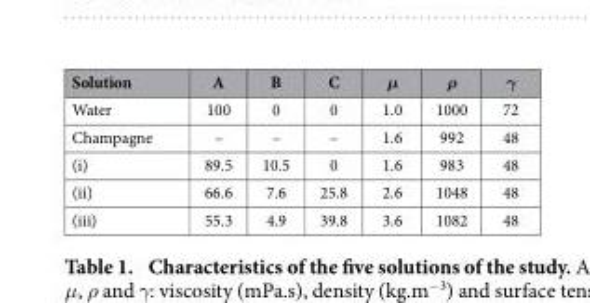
<table><thead><tr><td>Solution</td><td>A</td><td>B</td><td>C</td><td>μ</td><td>ρ</td><td>γ</td></tr></thead><tbody><tr><td>Water</td><td>100</td><td>0</td><td>0</td><td>1.0</td><td>1000</td><td>72</td></tr><tr><td>Champagne</td><td>–</td><td>–</td><td>–</td><td>1.6</td><td>992</td><td>48</td></tr><tr><td>(i)</td><td>89.5</td><td>10.5</td><td>0</td><td>1.6</td><td>983</td><td>48</td></tr><tr><td>(ii)</td><td>66.6</td><td>7.6</td><td>25.8</td><td>2.6</td><td>1048</td><td>48</td></tr><tr><td>(iii)</td><td>55.3</td><td>4.9</td><td>39.8</td><td>3.6</td><td>1082</td><td>48</td></tr></tbody></table>